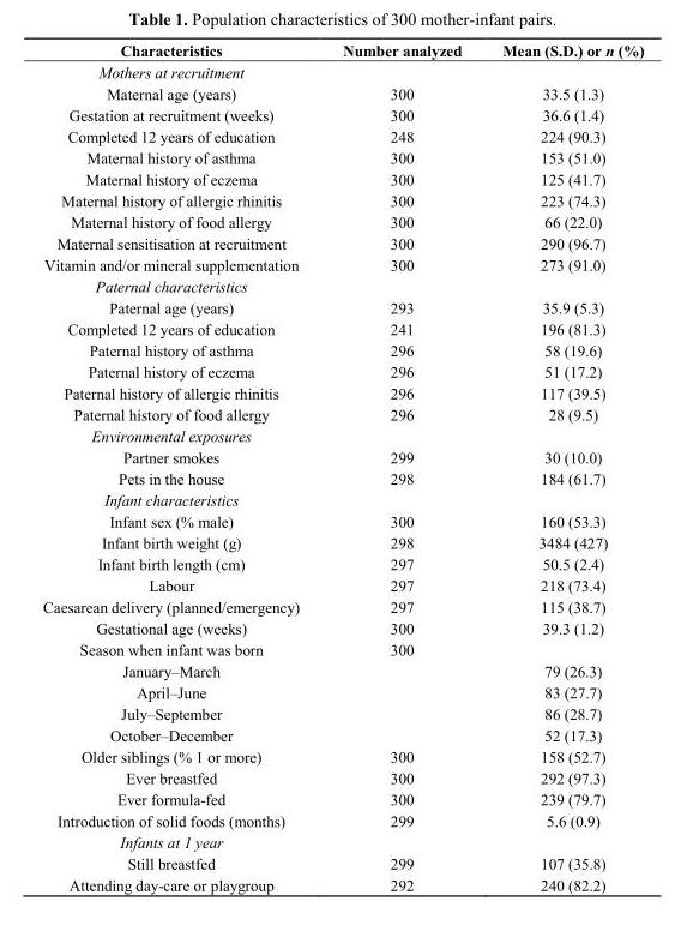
<table><thead><tr><td>Characteristics</td><td>Number analyzed</td><td>Mean (S.D.) or n (%)</td></tr></thead><tbody><tr><td colspan="3">Mothers at recruitment</td></tr><tr><td>Maternal age (years)</td><td>300</td><td>33.5 (1.3)</td></tr><tr><td>Gestation at recruitment (weeks)</td><td>300</td><td>36.6 (1.4)</td></tr><tr><td>Completed 12 years of education</td><td>248</td><td>224 (90.3)</td></tr><tr><td>Maternal history of asthma</td><td>300</td><td>153 (51.0)</td></tr><tr><td>Maternal history of eczema</td><td>300</td><td>125 (41.7)</td></tr><tr><td>Maternal history of allergic rhinitis</td><td>300</td><td>223 (74.3)</td></tr><tr><td>Maternal history of food allergy</td><td>300</td><td>66 (22.0)</td></tr><tr><td>Maternal sensitisation at recruitment</td><td>300</td><td>290 (96.7)</td></tr><tr><td>Vitamin and/or mineral supplementation</td><td>300</td><td>273 (91.0)</td></tr><tr><td colspan="3">Paternal characteristics</td></tr><tr><td>Paternal age (years)</td><td>293</td><td>35.9 (5.3)</td></tr><tr><td>Completed 12 years of education</td><td>241</td><td>196 (81.3)</td></tr><tr><td>Paternal history of asthma</td><td>296</td><td>58 (19.6)</td></tr><tr><td>Paternal history of eczema</td><td>296</td><td>51 (17.2)</td></tr><tr><td>Paternal history of allergic rhinitis</td><td>296</td><td>117 (39.5)</td></tr><tr><td>Paternal history of food allergy</td><td>296</td><td>28 (9.5)</td></tr><tr><td colspan="3">Environmental exposures</td></tr><tr><td>Partner smokes</td><td>299</td><td>30 (10.0)</td></tr><tr><td>Pets in the house</td><td>298</td><td>184 (61.7)</td></tr><tr><td colspan="3">Infant characteristics</td></tr><tr><td>Infant sex (% male)</td><td>300</td><td>160 (53.3)</td></tr><tr><td>Infant birth weight (g)</td><td>298</td><td>3484 (427)</td></tr><tr><td>Infant birth length (cm)</td><td>297</td><td>50.5 (2.4)</td></tr><tr><td>Labour</td><td>297</td><td>218 (73.4)</td></tr><tr><td>Caesarean delivery (planned/emergency)</td><td>297</td><td>115 (38.7)</td></tr><tr><td>Gestational age (weeks)</td><td>300</td><td>39.3 (1.2)</td></tr><tr><td>Season when infant was born</td><td>300</td><td></td></tr><tr><td>January–March</td><td></td><td>79 (26.3)</td></tr><tr><td>April–June</td><td></td><td>83 (27.7)</td></tr><tr><td>July–September</td><td></td><td>86 (28.7)</td></tr><tr><td>October–December</td><td></td><td>52 (17.3)</td></tr><tr><td>Older siblings (% 1 or more)</td><td>300</td><td>158 (52.7)</td></tr><tr><td>Ever breastfed</td><td>300</td><td>292 (97.3)</td></tr><tr><td>Ever formula-fed</td><td>300</td><td>239 (79.7)</td></tr><tr><td>Introduction of solid foods (months)</td><td>299</td><td>5.6 (0.9)</td></tr><tr><td colspan="3">Infants at 1 year</td></tr><tr><td>Still breastfed</td><td>299</td><td>107 (35.8)</td></tr><tr><td>Attending day-care or playgroup</td><td>292</td><td>240 (82.2)</td></tr></tbody></table>